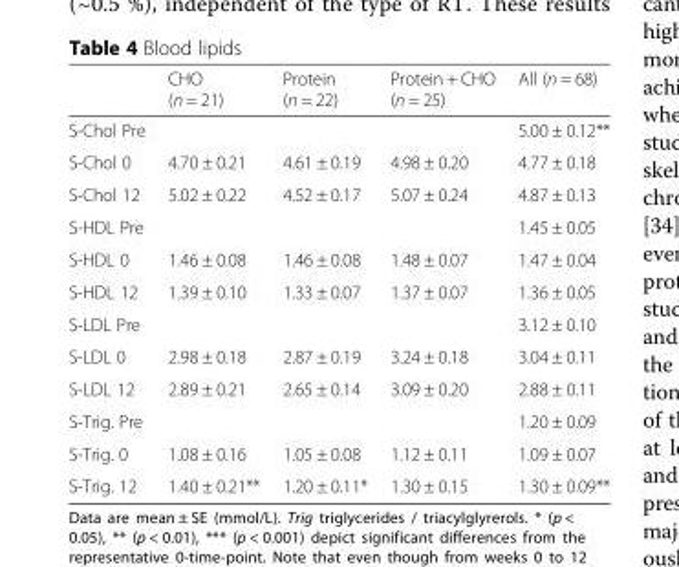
<table><thead><tr><td></td><td>CHO (n = 21)</td><td>Protein (n = 22)</td><td>Protein + CHO (n = 25)</td><td>All (n = 68)</td></tr></thead><tbody><tr><td>S-Chol Pre</td><td></td><td></td><td></td><td>5.00 ± 0.12**</td></tr><tr><td>S-Chol 0</td><td>4.70 ± 0.21</td><td>4.61 ± 0.19</td><td>4.98 ± 0.20</td><td>4.77 ± 0.18</td></tr><tr><td>S-Chol 12</td><td>5.02 ± 0.22</td><td>4.52 ± 0.17</td><td>5.07 ± 0.24</td><td>4.87 ± 0.13</td></tr><tr><td>S-HDL Pre</td><td></td><td></td><td></td><td>1.45 ± 0.05</td></tr><tr><td>S-HDL 0</td><td>1.46 ± 0.08</td><td>1.46 ± 0.08</td><td>1.48 ± 0.07</td><td>1.47 ± 0.04</td></tr><tr><td>S-HDL 12</td><td>1.39 ± 0.10</td><td>1.33 ± 0.07</td><td>1.37 ± 0.07</td><td>1.36 ± 0.05</td></tr><tr><td>S-LDL Pre</td><td></td><td></td><td></td><td>3.12 ± 0.10</td></tr><tr><td>S-LDL 0</td><td>2.98 ± 0.18</td><td>2.87 ± 0.19</td><td>3.24 ± 0.18</td><td>3.04 ± 0.11</td></tr><tr><td>S-LDL 12</td><td>2.89 ± 0.21</td><td>2.65 ± 0.14</td><td>3.09 ± 0.20</td><td>2.88 ± 0.11</td></tr><tr><td>S-Trig. Pre</td><td></td><td></td><td></td><td>1.20 ± 0.09</td></tr><tr><td>S-Trig. 0</td><td>1.08 ± 0.16</td><td>1.05 ± 0.08</td><td>1.12 ± 0.11</td><td>1.09 ± 0.07</td></tr><tr><td>S-Trig. 12</td><td>1.40 ± 0.21**</td><td>1.20 ± 0.11*</td><td>1.30 ± 0.15</td><td>1.30 ± 0.09**</td></tr></tbody></table>